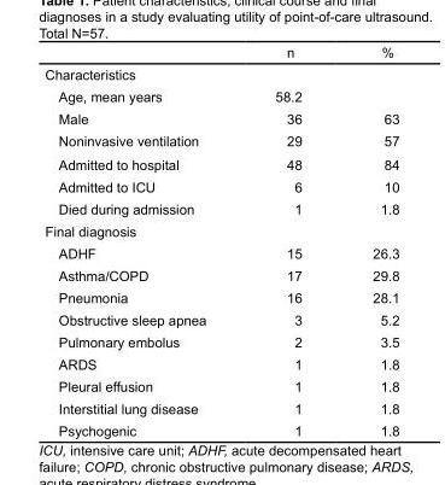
<table><thead><tr><td></td><td>n</td><td>%</td></tr></thead><tbody><tr><td colspan="3">Characteristics</td></tr><tr><td>Age, mean years</td><td>58.2</td><td></td></tr><tr><td>Male</td><td>36</td><td>63</td></tr><tr><td>Noninvasive ventilation</td><td>29</td><td>57</td></tr><tr><td>Admitted to hospital</td><td>48</td><td>84</td></tr><tr><td>Admitted to ICU</td><td>6</td><td>10</td></tr><tr><td>Died during admission</td><td>1</td><td>1.8</td></tr><tr><td colspan="3">Final diagnosis</td></tr><tr><td>ADHF</td><td>15</td><td>26.3</td></tr><tr><td>Asthma/COPD</td><td>17</td><td>29.8</td></tr><tr><td>Pneumonia</td><td>16</td><td>28.1</td></tr><tr><td>Obstructive sleep apnea</td><td>3</td><td>5.2</td></tr><tr><td>Pulmonary embolus</td><td>2</td><td>3.5</td></tr><tr><td>ARDS</td><td>1</td><td>1.8</td></tr><tr><td>Pleural effusion</td><td>1</td><td>1.8</td></tr><tr><td>Interstitial lung disease</td><td>1</td><td>1.8</td></tr><tr><td>Psychogenic</td><td>1</td><td>1.8</td></tr></tbody></table>